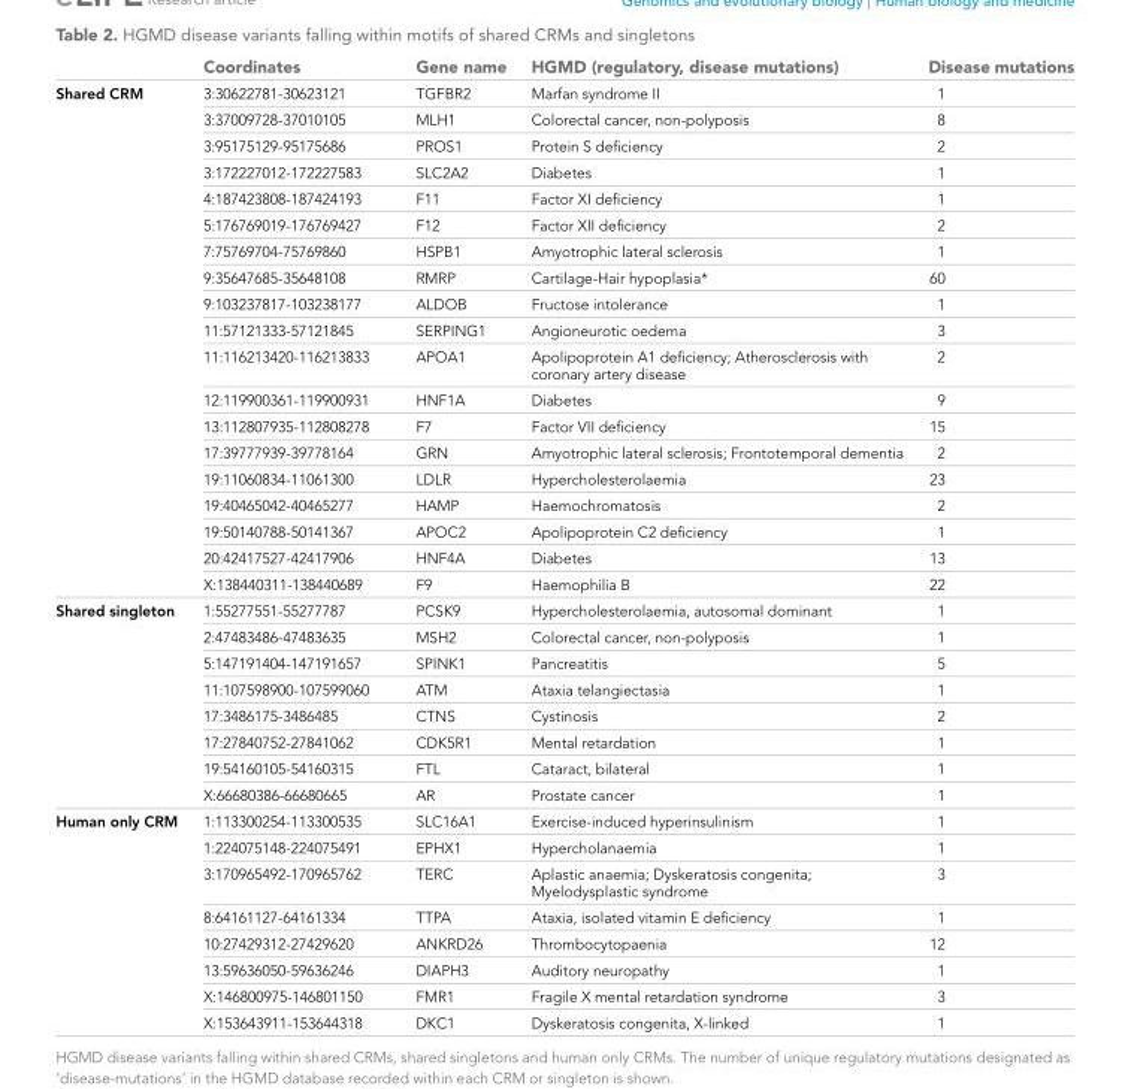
<table><thead><tr><td></td><td>Coordinates</td><td>Gene name</td><td>HGMD (regulatory, disease mutations)</td><td>Disease mutations</td></tr></thead><tbody><tr><td rowspan="19">Shared CRM</td><td>3:30622781-30623121</td><td>TGFBR2</td><td>Marfan syndrome II</td><td>1</td></tr><tr><td>3:37009728-37010105</td><td>MLH1</td><td>Colorectal cancer, non-polyposis</td><td>8</td></tr><tr><td>3:95175129-95175686</td><td>PROS1</td><td>Protein S deficiency</td><td>2</td></tr><tr><td>3:172227012-172227583</td><td>SLC2A2</td><td>Diabetes</td><td>1</td></tr><tr><td>4:187423808-187424193</td><td>F11</td><td>Factor XI deficiency</td><td>1</td></tr><tr><td>5:176769019-176769427</td><td>F12</td><td>Factor XII deficiency</td><td>2</td></tr><tr><td>7:75769704-75769860</td><td>HSPB1</td><td>Amyotrophic lateral sclerosis</td><td>1</td></tr><tr><td>9:35647685-35648108</td><td>RMRP</td><td>Cartilage-Hair hypoplasia*</td><td>60</td></tr><tr><td>9:103237817-103238177</td><td>ALDOB</td><td>Fructose intolerance</td><td>1</td></tr><tr><td>11:57121333-57121845</td><td>SERPING1</td><td>Angioneurotic oedema</td><td>3</td></tr><tr><td>11:116213420-116213833</td><td>APOA1</td><td>Apolipoprotein A1 deficiency; Atherosclerosis with coronary artery disease</td><td>2</td></tr><tr><td>12:119900361-119900931</td><td>HNF1A</td><td>Diabetes</td><td>9</td></tr><tr><td>13:112807935-112808278</td><td>F7</td><td>Factor VII deficiency</td><td>15</td></tr><tr><td>17:39777939-39778164</td><td>GRN</td><td>Amyotrophic lateral sclerosis; Frontotemporal dementia</td><td>2</td></tr><tr><td>19:11060834-11061300</td><td>LDLR</td><td>Hypercholesterolaemia</td><td>23</td></tr><tr><td>19:40465042-40465277</td><td>HAMP</td><td>Haemochromatosis</td><td>2</td></tr><tr><td>19:50140788-50141367</td><td>APOC2</td><td>Apolipoprotein C2 deficiency</td><td>1</td></tr><tr><td>20:42417527-42417906</td><td>HNF4A</td><td>Diabetes</td><td>13</td></tr><tr><td>X:138440311-138440689</td><td>F9</td><td>Haemophilia B</td><td>22</td></tr><tr><td rowspan="8">Shared singleton</td><td>1:55277551-55277787</td><td>PCSK9</td><td>Hypercholesterolaemia, autosomal dominant</td><td>1</td></tr><tr><td>2:47483486-47483635</td><td>MSH2</td><td>Colorectal cancer, non-polyposis</td><td>1</td></tr><tr><td>5:147191404-147191657</td><td>SPINK1</td><td>Pancreatitis</td><td>5</td></tr><tr><td>11:107598900-107599060</td><td>ATM</td><td>Ataxia telangiectasia</td><td>1</td></tr><tr><td>17:3486175-3486485</td><td>CTNS</td><td>Cystinosis</td><td>2</td></tr><tr><td>17:27840752-27841062</td><td>CDK5R1</td><td>Mental retardation</td><td>1</td></tr><tr><td>19:54160105-54160315</td><td>FTL</td><td>Cataract, bilateral</td><td>1</td></tr><tr><td>X:66680386-66680665</td><td>AR</td><td>Prostate cancer</td><td>1</td></tr><tr><td rowspan="8">Human only CRM</td><td>1:113300254-113300535</td><td>SLC16A1</td><td>Exercise-induced hyperinsulinism</td><td>1</td></tr><tr><td>1:224075148-224075491</td><td>EPHX1</td><td>Hypercholanaemia</td><td>1</td></tr><tr><td>3:170965492-170965762</td><td>TERC</td><td>Aplastic anaemia; Dyskeratosis congenita; Myelodysplastic syndrome</td><td>3</td></tr><tr><td>8:64161127-64161334</td><td>TTPA</td><td>Ataxia, isolated vitamin E deficiency</td><td>1</td></tr><tr><td>10:27429312-27429620</td><td>ANKRD26</td><td>Thrombocytopaenia</td><td>12</td></tr><tr><td>13:59636050-59636246</td><td>DIAPH3</td><td>Auditory neuropathy</td><td>1</td></tr><tr><td>X:146800975-146801150</td><td>FMR1</td><td>Fragile X mental retardation syndrome</td><td>3</td></tr><tr><td>X:153643911-153644318</td><td>DKC1</td><td>Dyskeratosis congenita, X-linked</td><td>1</td></tr></tbody></table>